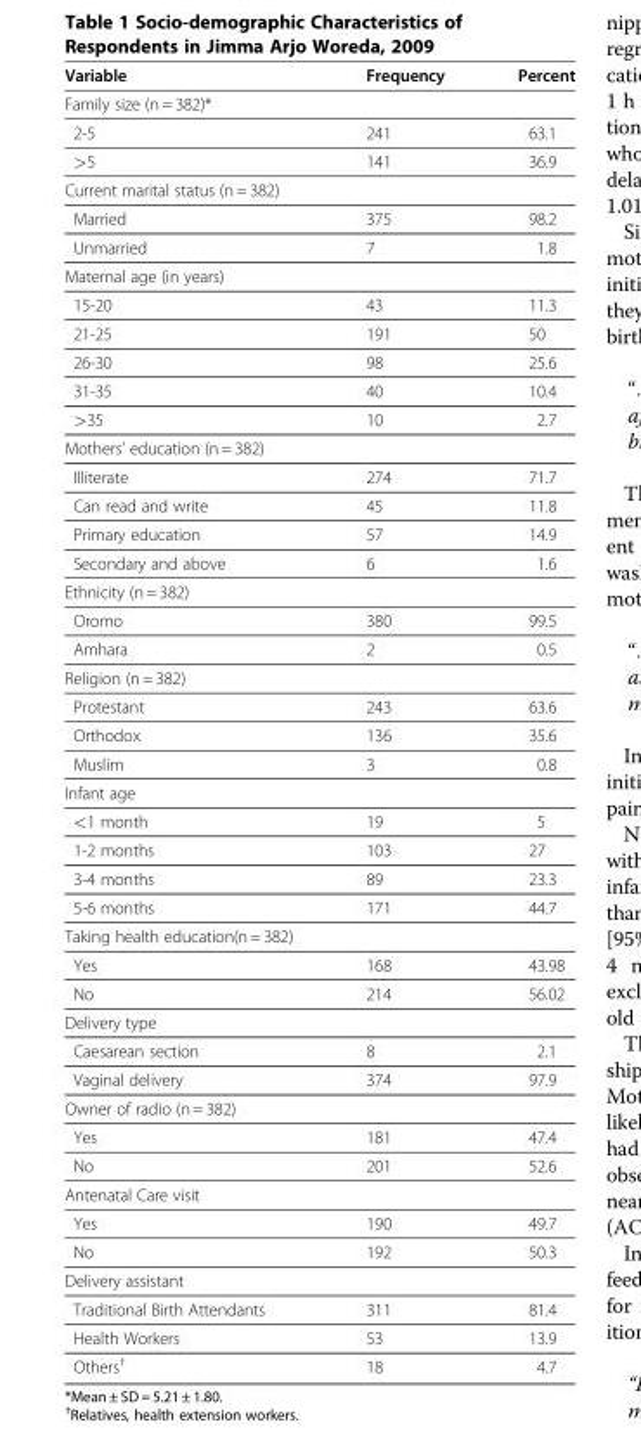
<table><thead><tr><td>Variable</td><td>Frequency</td><td>Percent</td></tr></thead><tbody><tr><td colspan="3">Family size (n = 382)*</td></tr><tr><td>2-5</td><td>241</td><td>63.1</td></tr><tr><td>&gt;5</td><td>141</td><td>36.9</td></tr><tr><td colspan="3">Current marital status (n = 382)</td></tr><tr><td>Married</td><td>375</td><td>98.2</td></tr><tr><td>Unmarried</td><td>7</td><td>1.8</td></tr><tr><td colspan="3">Maternal age (in years)</td></tr><tr><td>15-20</td><td>43</td><td>11.3</td></tr><tr><td>21-25</td><td>191</td><td>50</td></tr><tr><td>26-30</td><td>98</td><td>25.6</td></tr><tr><td>31-35</td><td>40</td><td>10.4</td></tr><tr><td>&gt;35</td><td>10</td><td>2.7</td></tr><tr><td colspan="3">Mothers’ education (n = 382)</td></tr><tr><td>Illiterate</td><td>274</td><td>71.7</td></tr><tr><td>Can read and write</td><td>45</td><td>11.8</td></tr><tr><td>Primary education</td><td>57</td><td>14.9</td></tr><tr><td>Secondary and above</td><td>6</td><td>1.6</td></tr><tr><td colspan="3">Ethnicity (n = 382)</td></tr><tr><td>Oromo</td><td>380</td><td>99.5</td></tr><tr><td>Amhara</td><td>2</td><td>0.5</td></tr><tr><td colspan="3">Religion (n = 382)</td></tr><tr><td>Protestant</td><td>243</td><td>63.6</td></tr><tr><td>Orthodox</td><td>136</td><td>35.6</td></tr><tr><td>Muslim</td><td>3</td><td>0.8</td></tr><tr><td colspan="3">Infant age</td></tr><tr><td>&lt;1 month</td><td>19</td><td>5</td></tr><tr><td>1-2 months</td><td>103</td><td>27</td></tr><tr><td>3-4 months</td><td>89</td><td>23.3</td></tr><tr><td>5-6 months</td><td>171</td><td>44.7</td></tr><tr><td colspan="3">Taking health education(n = 382)</td></tr><tr><td>Yes</td><td>168</td><td>43.98</td></tr><tr><td>No</td><td>214</td><td>56.02</td></tr><tr><td colspan="3">Delivery type</td></tr><tr><td>Caesarean section</td><td>8</td><td>2.1</td></tr><tr><td>Vaginal delivery</td><td>374</td><td>97.9</td></tr><tr><td colspan="3">Owner of radio (n = 382)</td></tr><tr><td>Yes</td><td>181</td><td>47.4</td></tr><tr><td>No</td><td>201</td><td>52.6</td></tr><tr><td colspan="3">Antenatal Care visit</td></tr><tr><td>Yes</td><td>190</td><td>49.7</td></tr><tr><td>No</td><td>192</td><td>50.3</td></tr><tr><td colspan="3">Delivery assistant</td></tr><tr><td>Traditional Birth Attendants</td><td>311</td><td>81.4</td></tr><tr><td>Health Workers</td><td>53</td><td>13.9</td></tr><tr><td>Others<sup>†</sup></td><td>18</td><td>4.7</td></tr></tbody></table>